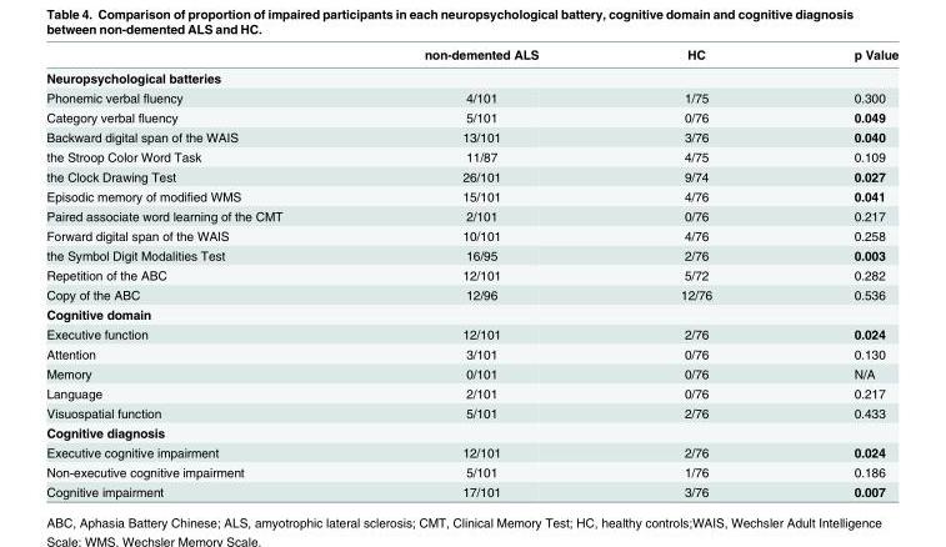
<table><thead><tr><td></td><td>non-demented ALS</td><td>HC</td><td>p Value</td></tr></thead><tbody><tr><td colspan="4">Neuropsychological batteries</td></tr><tr><td>Phonemic verbal fluency</td><td>4/101</td><td>1/75</td><td>0.300</td></tr><tr><td>Category verbal fluency</td><td>5/101</td><td>0/76</td><td>0.049</td></tr><tr><td>Backward digital span of the WAIS</td><td>13/101</td><td>3/76</td><td>0.040</td></tr><tr><td>the Stroop Color Word Task</td><td>11/87</td><td>4/75</td><td>0.109</td></tr><tr><td>the Clock Drawing Test</td><td>26/101</td><td>9/74</td><td>0.027</td></tr><tr><td>Episodic memory of modified WMS</td><td>15/101</td><td>4/76</td><td>0.041</td></tr><tr><td>Paired associate word learning of the CMT</td><td>2/101</td><td>0/76</td><td>0.217</td></tr><tr><td>Forward digital span of the WAIS</td><td>10/101</td><td>4/76</td><td>0.258</td></tr><tr><td>the Symbol Digit Modalities Test</td><td>16/95</td><td>2/76</td><td>0.003</td></tr><tr><td>Repetition of the ABC</td><td>12/101</td><td>5/72</td><td>0.282</td></tr><tr><td>Copy of the ABC</td><td>12/96</td><td>12/76</td><td>0.536</td></tr><tr><td colspan="4">Cognitive domain</td></tr><tr><td>Executive function</td><td>12/101</td><td>2/76</td><td>0.024</td></tr><tr><td>Attention</td><td>3/101</td><td>0/76</td><td>0.130</td></tr><tr><td>Memory</td><td>0/101</td><td>0/76</td><td>N/A</td></tr><tr><td>Language</td><td>2/101</td><td>0/76</td><td>0.217</td></tr><tr><td>Visuospatial function</td><td>5/101</td><td>2/76</td><td>0.433</td></tr><tr><td colspan="4">Cognitive diagnosis</td></tr><tr><td>Executive cognitive impairment</td><td>12/101</td><td>2/76</td><td>0.024</td></tr><tr><td>Non-executive cognitive impairment</td><td>5/101</td><td>1/76</td><td>0.186</td></tr><tr><td>Cognitive impairment</td><td>17/101</td><td>3/76</td><td>0.007</td></tr></tbody></table>